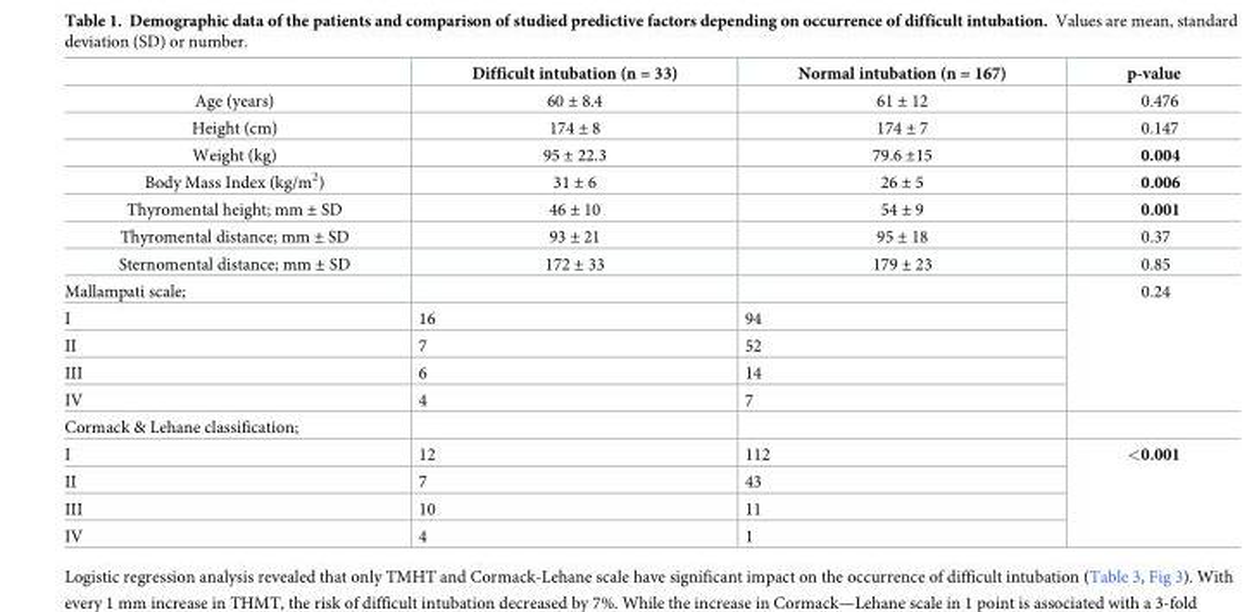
<table><thead><tr><td></td><td>Difficult intubation (n = 33)</td><td>Normal intubation (n = 167)</td><td>p-value</td></tr></thead><tbody><tr><td>Age (years)</td><td>60 ± 8.4</td><td>61 ± 12</td><td>0.476</td></tr><tr><td>Height (cm)</td><td>174 ± 8</td><td>174 ± 7</td><td>0.147</td></tr><tr><td>Weight (kg)</td><td>95 ± 22.3</td><td>79.6 ±15</td><td>0.004</td></tr><tr><td>Body Mass Index (kg/m<sup>2</sup>)</td><td>31 ± 6</td><td>26 ± 5</td><td>0.006</td></tr><tr><td>Thyromental height; mm ± SD</td><td>46 ± 10</td><td>54 ± 9</td><td>0.001</td></tr><tr><td>Thyromental distance; mm ± SD</td><td>93 ± 21</td><td>95 ± 18</td><td>0.37</td></tr><tr><td>Sternomental distance; mm ± SD</td><td>172 ± 33</td><td>179 ± 23</td><td>0.85</td></tr><tr><td colspan="3">Mallampati scale;</td><td rowspan="5">0.24</td></tr><tr><td>I</td><td>16</td><td>94</td></tr><tr><td>II</td><td>7</td><td>52</td></tr><tr><td>III</td><td>6</td><td>14</td></tr><tr><td>IV</td><td>4</td><td>7</td></tr><tr><td colspan="4">Cormack &amp; Lehane classification;</td></tr><tr><td>I</td><td>12</td><td>112</td><td rowspan="4">&lt;0.001</td></tr><tr><td>II</td><td>7</td><td>43</td></tr><tr><td>III</td><td>10</td><td>11</td></tr><tr><td>IV</td><td>4</td><td>1</td></tr></tbody></table>